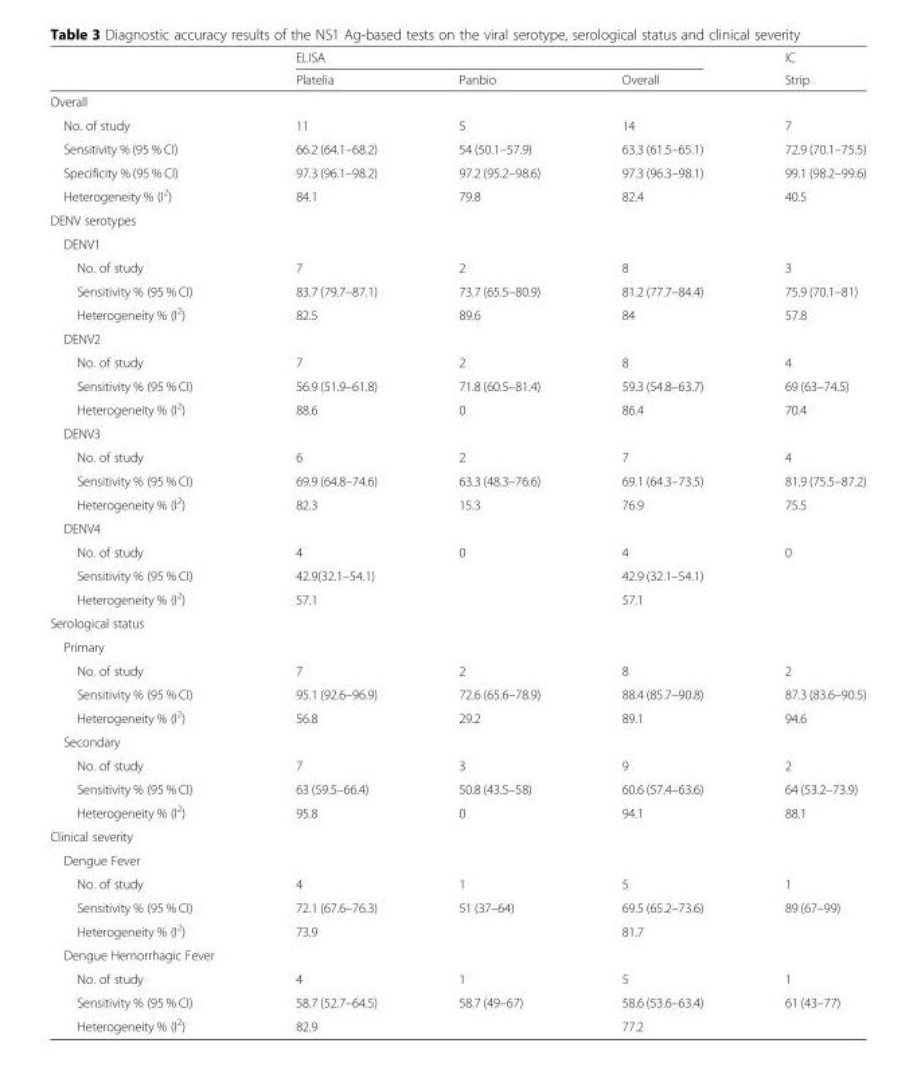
<table><thead><tr><td rowspan="2"></td><td colspan="3">ELISA</td><td rowspan="2">IC Strip</td></tr><tr><td>Platelia</td><td>Panbio</td><td>Overall</td></tr></thead><tbody><tr><td colspan="5">Overall</td></tr><tr><td>No. of study</td><td>11</td><td>5</td><td>14</td><td>7</td></tr><tr><td>Sensitivity % (95 % CI)</td><td>66.2 (64.1–68.2)</td><td>54 (50.1–57.9)</td><td>63.3 (61.5–65.1)</td><td>72.9 (70.1–75.5)</td></tr><tr><td>Specificity % (95 % CI)</td><td>97.3 (96.1–98.2)</td><td>97.2 (95.2–98.6)</td><td>97.3 (96.3–98.1)</td><td>99.1 (98.2–99.6)</td></tr><tr><td>Heterogeneity % (I<sup>2</sup>)</td><td>84.1</td><td>79.8</td><td>82.4</td><td>40.5</td></tr><tr><td colspan="5">DENV serotypes</td></tr><tr><td colspan="5">DENV1</td></tr><tr><td>No. of study</td><td>7</td><td>2</td><td>8</td><td>3</td></tr><tr><td>Sensitivity % (95 % CI)</td><td>83.7 (79.7–87.1)</td><td>73.7 (65.5–80.9)</td><td>81.2 (77.7–84.4)</td><td>75.9 (70.1–81)</td></tr><tr><td>Heterogeneity % (I<sup>2</sup>)</td><td>82.5</td><td>89.6</td><td>84</td><td>57.8</td></tr><tr><td colspan="5">DENV2</td></tr><tr><td>No. of study</td><td>7</td><td>2</td><td>8</td><td>4</td></tr><tr><td>Sensitivity % (95 % CI)</td><td>56.9 (51.9–61.8)</td><td>71.8 (60.5–81.4)</td><td>59.3 (54.8–63.7)</td><td>69 (63–74.5)</td></tr><tr><td>Heterogeneity % (I<sup>2</sup>)</td><td>88.6</td><td>0</td><td>86.4</td><td>70.4</td></tr><tr><td colspan="5">DENV3</td></tr><tr><td>No. of study</td><td>6</td><td>2</td><td>7</td><td>4</td></tr><tr><td>Sensitivity % (95 % CI)</td><td>69.9 (64.8–74.6)</td><td>63.3 (48.3–76.6)</td><td>69.1 (64.3–73.5)</td><td>81.9 (75.5–87.2)</td></tr><tr><td>Heterogeneity % (I<sup>2</sup>)</td><td>82.3</td><td>15.3</td><td>76.9</td><td>75.5</td></tr><tr><td colspan="5">DENV4</td></tr><tr><td>No. of study</td><td>4</td><td>0</td><td>4</td><td>0</td></tr><tr><td>Sensitivity % (95 % CI)</td><td>42.9(32.1–54.1)</td><td></td><td>42.9 (32.1–54.1)</td><td></td></tr><tr><td>Heterogeneity % (I<sup>2</sup>)</td><td>57.1</td><td></td><td>57.1</td><td></td></tr><tr><td colspan="5">Serological status</td></tr><tr><td colspan="5">Primary</td></tr><tr><td>No. of study</td><td>7</td><td>2</td><td>8</td><td>2</td></tr><tr><td>Sensitivity % (95 % CI)</td><td>95.1 (92.6–96.9)</td><td>72.6 (65.6–78.9)</td><td>88.4 (85.7–90.8)</td><td>87.3 (83.6–90.5)</td></tr><tr><td>Heterogeneity % (I<sup>2</sup>)</td><td>56.8</td><td>29.2</td><td>89.1</td><td>94.6</td></tr><tr><td colspan="5">Secondary</td></tr><tr><td>No. of study</td><td>7</td><td>3</td><td>9</td><td>2</td></tr><tr><td>Sensitivity % (95 % CI)</td><td>63 (59.5–66.4)</td><td>50.8 (43.5–58)</td><td>60.6 (57.4–63.6)</td><td>64 (53.2–73.9)</td></tr><tr><td>Heterogeneity % (I<sup>2</sup>)</td><td>95.8</td><td>0</td><td>94.1</td><td>88.1</td></tr><tr><td colspan="5">Clinical severity</td></tr><tr><td colspan="5">Dengue Fever</td></tr><tr><td>No. of study</td><td>4</td><td>1</td><td>5</td><td>1</td></tr><tr><td>Sensitivity % (95 % CI)</td><td>72.1 (67.6–76.3)</td><td>51 (37–64)</td><td>69.5 (65.2–73.6)</td><td>89 (67–99)</td></tr><tr><td>Heterogeneity % (I<sup>2</sup>)</td><td>73.9</td><td></td><td>81.7</td><td></td></tr><tr><td colspan="5">Dengue Hemorrhagic Fever</td></tr><tr><td>No. of study</td><td>4</td><td>1</td><td>5</td><td>1</td></tr><tr><td>Sensitivity % (95 % CI)</td><td>58.7 (52.7–64.5)</td><td>58.7 (49–67)</td><td>58.6 (53.6–63.4)</td><td>61 (43–77)</td></tr><tr><td>Heterogeneity % (I<sup>2</sup>)</td><td>82.9</td><td></td><td>77.2</td><td></td></tr></tbody></table>